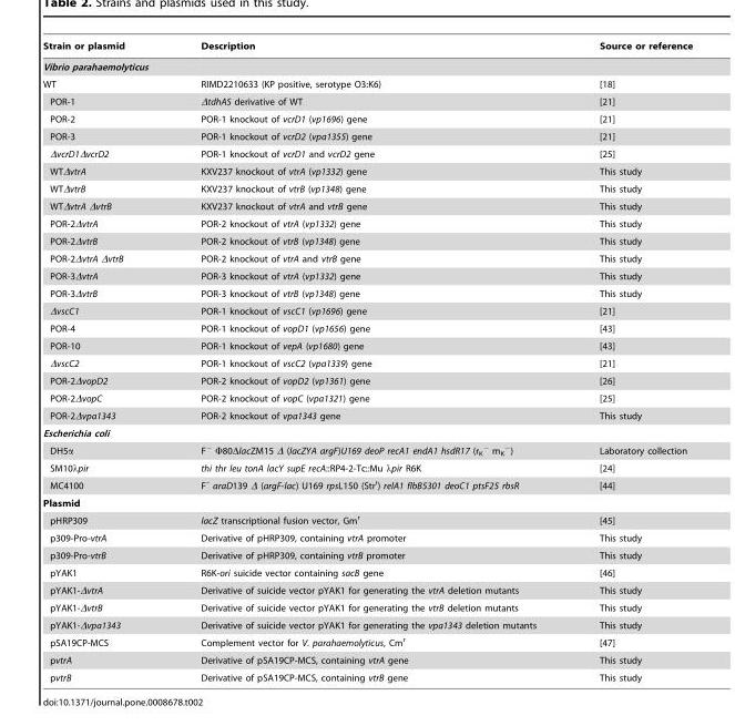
<table><thead><tr><td>Strain or plasmid</td><td>Description</td><td>Source or reference</td></tr></thead><tbody><tr><td colspan="3">Vibrio parahaemolyticus</td></tr><tr><td>WT</td><td>RIMD2210633 (KP positive, serotype O3:K6)</td><td>[18]</td></tr><tr><td>POR-1</td><td>ΔtdhAS derivative of WT</td><td>[21]</td></tr><tr><td>POR-2</td><td>POR-1 knockout of vcrD1 (vp1696) gene</td><td>[21]</td></tr><tr><td>POR-3</td><td>POR-1 knockout of vcrD2 (vpa1355) gene</td><td>[21]</td></tr><tr><td>ΔvcrD1ΔvcrD2</td><td>POR-1 knockout of vcrD1 and vcrD2 gene</td><td>[25]</td></tr><tr><td>WTΔvtrA</td><td>KXV237 knockout of vtrA (vp1332) gene</td><td>This study</td></tr><tr><td>WTΔvtrB</td><td>KXV237 knockout of vtrB (vp1348) gene</td><td>This study</td></tr><tr><td>WTΔvtrA ΔvtrB</td><td>KXV237 knockout of vtrA and vtrB gene</td><td>This study</td></tr><tr><td>POR-2ΔvtrA</td><td>POR-2 knockout of vtrA (vp1332) gene</td><td>This study</td></tr><tr><td>POR-2ΔvtrB</td><td>POR-2 knockout of vtrB (vp1348) gene</td><td>This study</td></tr><tr><td>POR-2ΔvtrA ΔvtrB</td><td>POR-2 knockout of vtrA and vtrB gene</td><td>This study</td></tr><tr><td>POR-3ΔvtrA</td><td>POR-3 knockout of vtrA (vp1332) gene</td><td>This study</td></tr><tr><td>POR-3ΔvtrB</td><td>POR-3 knockout of vtrB (vp1348) gene</td><td>This study</td></tr><tr><td>ΔvscC1</td><td>POR-1 knockout of vscC1 (vp1696) gene</td><td>[21]</td></tr><tr><td>POR-4</td><td>POR-1 knockout of vopD1 (vp1656) gene</td><td>[43]</td></tr><tr><td>POR-10</td><td>POR-1 knockout of vepA (vp1680) gene</td><td>[43]</td></tr><tr><td>ΔvscC2</td><td>POR-1 knockout of vscC2 (vpa1339) gene</td><td>[21]</td></tr><tr><td>POR-2ΔvopD2</td><td>POR-2 knockout of vopD2 (vp1361) gene</td><td>[26]</td></tr><tr><td>POR-2ΔvopC</td><td>POR-2 knockout of vopC (vpa1321) gene</td><td>[25]</td></tr><tr><td>POR-2Δvpa1343</td><td>POR-2 knockout of vpa1343 gene</td><td>This study</td></tr><tr><td colspan="3">Escherichia coli</td></tr><tr><td>DH5α</td><td>F<sup>−</sup> Φ80ΔlacZM15 Δ (lacZYA argF)U169 deoP recA1 endA1 hsdR17 (r<sub>K</sub> <sup>−</sup> m<sub>K</sub> <sup>−</sup>)</td><td>Laboratory collection</td></tr><tr><td>SM10λpir</td><td>thi thr leu tonA lacY supE recA::RP4-2-Tc::Mu λpir R6K</td><td>[24]</td></tr><tr><td>MC4100</td><td>F<sup>–</sup> araD139 Δ (argF-lac) U169 rpsL150 (Str<sup>r</sup>) relA1 flbB5301 deoC1 ptsF25 rbsR</td><td>[44]</td></tr><tr><td colspan="3">Plasmid</td></tr><tr><td>pHRP309</td><td>lacZ transcriptional fusion vector, Gm<sup>r</sup></td><td>[45]</td></tr><tr><td>p309-Pro-vtrA</td><td>Derivative of pHRP309, containing vtrA promoter</td><td>This study</td></tr><tr><td>p309-Pro-vtrB</td><td>Derivative of pHRP309, containing vtrB promoter</td><td>This study</td></tr><tr><td>pYAK1</td><td>R6K-ori suicide vector containing sacB gene</td><td>[46]</td></tr><tr><td>pYAK1-ΔvtrA</td><td>Derivative of suicide vector pYAK1 for generating the vtrA deletion mutants</td><td>This study</td></tr><tr><td>pYAK1-ΔvtrB</td><td>Derivative of suicide vector pYAK1 for generating the vtrB deletion mutants</td><td>This study</td></tr><tr><td>pYAK1-Δvpa1343</td><td>Derivative of suicide vector pYAK1 for generating the vpa1343 deletion mutants</td><td>This study</td></tr><tr><td>pSA19CP-MCS</td><td>Complement vector for V. parahaemolyticus, Cm<sup>r</sup></td><td>[47]</td></tr><tr><td>pvtrA</td><td>Derivative of pSA19CP-MCS, containing vtrA gene</td><td>This study</td></tr><tr><td>pvtrB</td><td>Derivative of pSA19CP-MCS, containing vtrB gene</td><td>This study</td></tr></tbody></table>